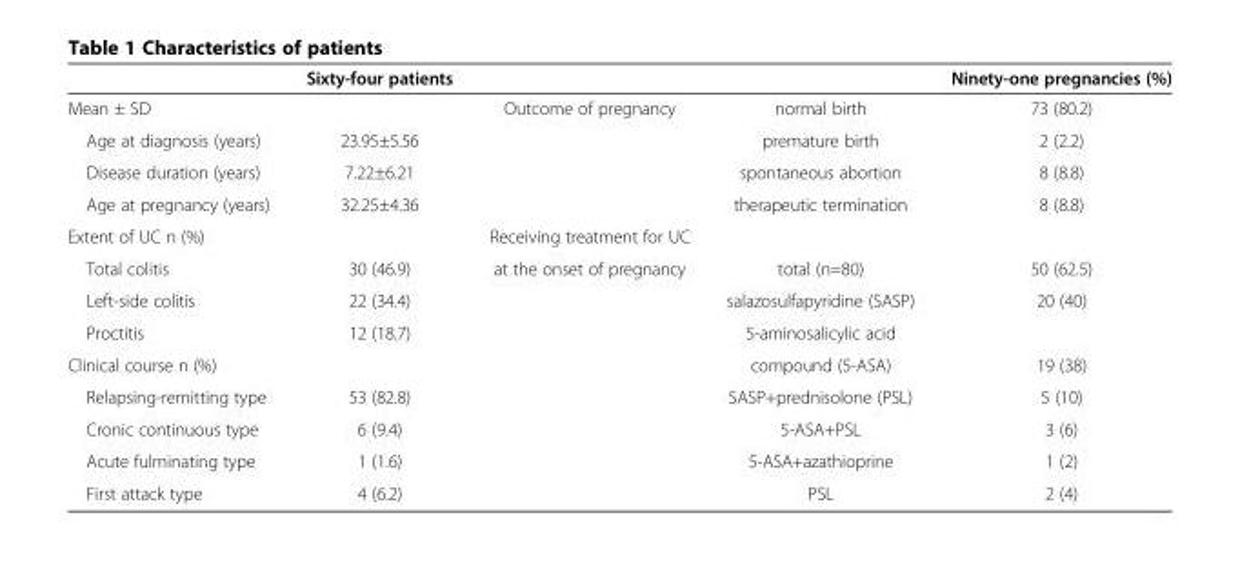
<table><thead><tr><td></td><td>Sixty-four patients</td><td></td><td></td><td>Ninety-one pregnancies (%)</td></tr></thead><tbody><tr><td>Mean ± SD</td><td></td><td>Outcome of pregnancy</td><td>normal birth</td><td>73 (80.2)</td></tr><tr><td>Age at diagnosis (years)</td><td>23.95±5.56</td><td></td><td>premature birth</td><td>2 (2.2)</td></tr><tr><td>Disease duration (years)</td><td>7.22±6.21</td><td></td><td>spontaneous abortion</td><td>8 (8.8)</td></tr><tr><td>Age at pregnancy (years)</td><td>32.25±4.36</td><td></td><td>therapeutic termination</td><td>8 (8.8)</td></tr><tr><td>Extent of UC n (%)</td><td></td><td>Receiving treatment for UC</td><td></td><td></td></tr><tr><td>Total colitis</td><td>30 (46.9)</td><td>at the onset of pregnancy</td><td>total (n=80)</td><td>50 (62.5)</td></tr><tr><td>Left-side colitis</td><td>22 (34.4)</td><td></td><td>salazosulfapyridine (SASP)</td><td>20 (40)</td></tr><tr><td>Proctitis</td><td>12 (18.7)</td><td></td><td>5-aminosalicylic acid</td><td></td></tr><tr><td>Clinical course n (%)</td><td></td><td></td><td>compound (5-ASA)</td><td>19 (38)</td></tr><tr><td>Relapsing-remitting type</td><td>53 (82.8)</td><td></td><td>SASP+prednisolone (PSL)</td><td>5 (10)</td></tr><tr><td>Cronic continuous type</td><td>6 (9.4)</td><td></td><td>5-ASA+PSL</td><td>3 (6)</td></tr><tr><td>Acute fulminating type</td><td>1 (1.6)</td><td></td><td>5-ASA+azathioprine</td><td>1 (2)</td></tr><tr><td>First attack type</td><td>4 (6.2)</td><td></td><td>PSL</td><td>2 (4)</td></tr></tbody></table>